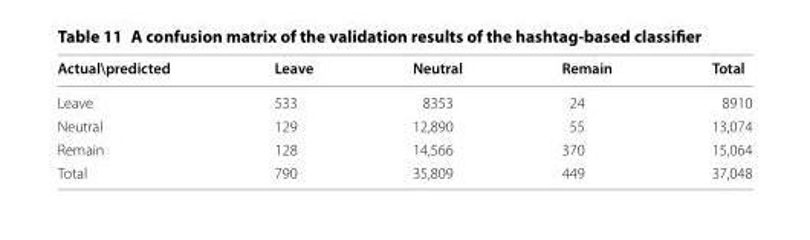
<table><thead><tr><td>Actual\predicted</td><td>Leave</td><td>Neutral</td><td>Remain</td><td>Total</td></tr></thead><tbody><tr><td>Leave</td><td>533</td><td>8353</td><td>24</td><td>8910</td></tr><tr><td>Neutral</td><td>129</td><td>12,890</td><td>55</td><td>13,074</td></tr><tr><td>Remain</td><td>128</td><td>14,566</td><td>370</td><td>15,064</td></tr><tr><td>Total</td><td>790</td><td>35,809</td><td>449</td><td>37,048</td></tr></tbody></table>